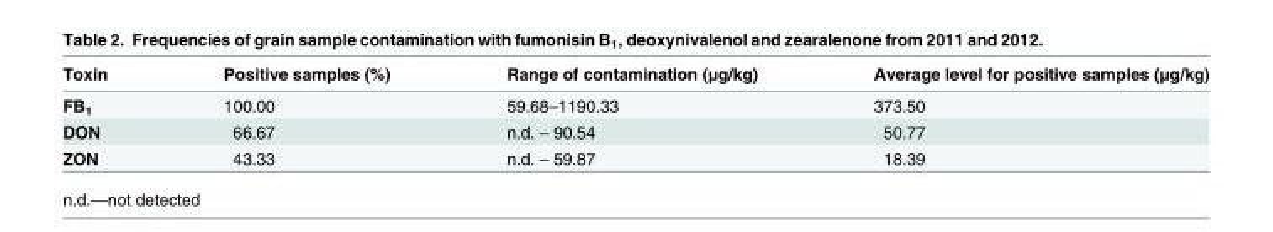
<table><thead><tr><td>Toxin</td><td>Positive samples (%)</td><td>Range of contamination (μg/kg)</td><td>Average level for positive samples (μg/kg)</td></tr></thead><tbody><tr><td>FB<sub>1</sub></td><td>100.00</td><td>59.68–1190.33</td><td>373.50</td></tr><tr><td>DON</td><td>66.67</td><td>n.d. – 90.54</td><td>50.77</td></tr><tr><td>ZON</td><td>43.33</td><td>n.d. – 59.87</td><td>18.39</td></tr></tbody></table>